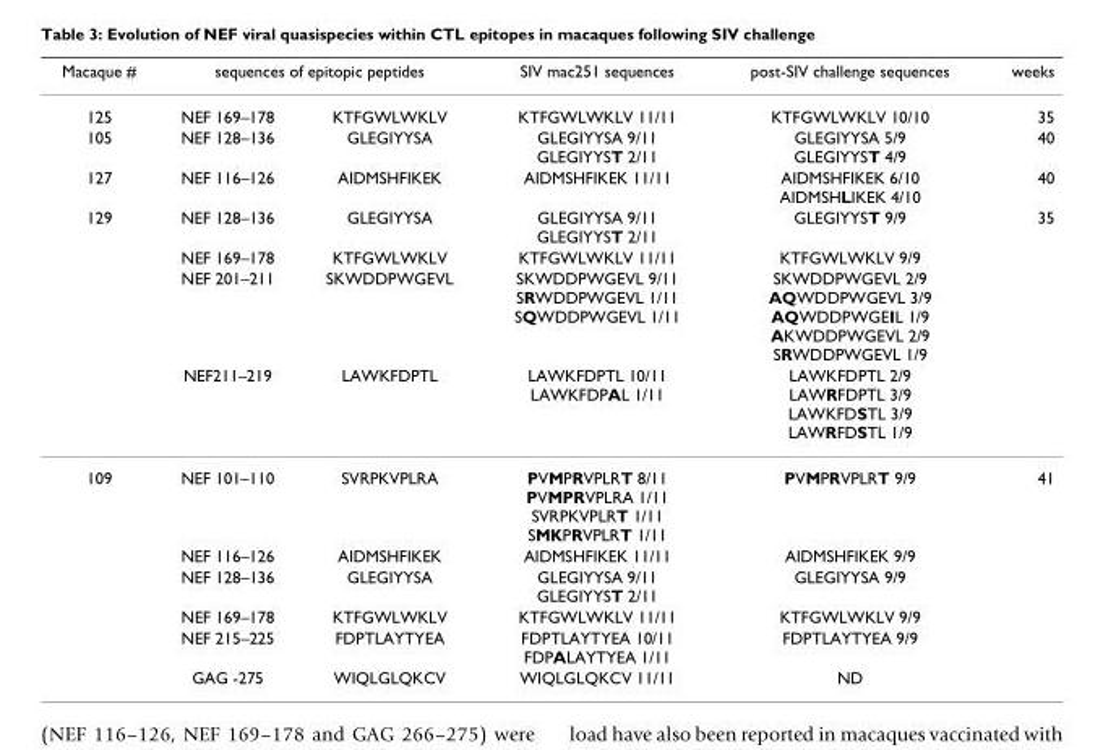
<table><thead><tr><td rowspan="2">Macaque # 125</td><td colspan="2">sequences of epitopic peptides</td><td rowspan="2">SIV mac251 sequences KTFGWLWKLV 11/11</td><td rowspan="2">post-SIV challenge sequences KTFGWLWKLV 10/10</td><td rowspan="2">weeks 35</td></tr><tr><td>NEF 169–178</td><td>KTFGWLWKLV</td></tr></thead><tbody><tr><td>105</td><td>NEF 128–136</td><td>GLEGIYYSA</td><td>GLEGIYYSA 9/11 GLEGIYYST 2/11</td><td>GLEGIYYSA 5/9 GLEGIYYST 4/9</td><td>40</td></tr><tr><td>127</td><td>NEF 116–126</td><td>AIDMSHFIKEK</td><td>AIDMSHFIKEK 11/11</td><td>AIDMSHFIKEK 6/10 AIDMSHLIKEK 4/10</td><td>40</td></tr><tr><td rowspan="4">129</td><td>NEF 128–136</td><td>GLEGIYYSA</td><td>GLEGIYYSA 9/11 GLEGIYYST 2/11</td><td>GLEGIYYST 9/9</td><td>35</td></tr><tr><td>NEF 169–178</td><td>KTFGWLWKLV</td><td>KTFGWLWKLV 11/11</td><td>KTFGWLWKLV 9/9</td><td></td></tr><tr><td>NEF 201–211</td><td>SKWDDPWGEVL</td><td>SKWDDPWGEVL 9/11 SRWDDPWGEVL 1/11 SQWDDPWGEVL 1/11</td><td>SKWDDPWGEVL 2/9 AQWDDPWGEVL 3/9 AQWDDPWGEIL 1/9 AKWDDPWGEVL 2/9 SRWDDPWGEVL 1/9</td><td></td></tr><tr><td>NEF211–219</td><td>LAWKFDPTL</td><td>LAWKFDPTL 10/11 LAWKFDPAL 1/11</td><td>LAWKFDPTL 2/9 LAWRFDPTL 3/9 LAWKFDSTL 3/9 LAWRFDSTL 1/9</td><td></td></tr><tr><td rowspan="6">109</td><td>NEF 101–110</td><td>SVRPKVPLRA</td><td>PVMPRVPLRT 8/11 PVMPRVPLRA 1/11 SVRPKVPLRT 1/11 SMKPRVPLRT 1/11</td><td>PVMPRVPLRT 9/9</td><td>41</td></tr><tr><td>NEF 116–126</td><td>AIDMSHFIKEK</td><td>AIDMSHFIKEK 11/11</td><td>AIDMSHFIKEK 9/9</td><td></td></tr><tr><td>NEF 128–136</td><td>GLEGIYYSA</td><td>GLEGIYYSA 9/11 GLEGIYYST 2/11</td><td>GLEGIYYSA 9/9</td><td></td></tr><tr><td>NEF 169–178</td><td>KTFGWLWKLV</td><td>KTFGWLWKLV 11/11</td><td>KTFGWLWKLV 9/9</td><td></td></tr><tr><td>NEF 215–225</td><td>FDPTLAYTYEA</td><td>FDPTLAYTYEA 10/11 FDPALAYTYEA 1/11</td><td>FDPTLAYTYEA 9/9</td><td></td></tr><tr><td>GAG -275</td><td>WIQLGLQKCV</td><td>WIQLGLQKCV 11/11</td><td>ND</td><td></td></tr></tbody></table>